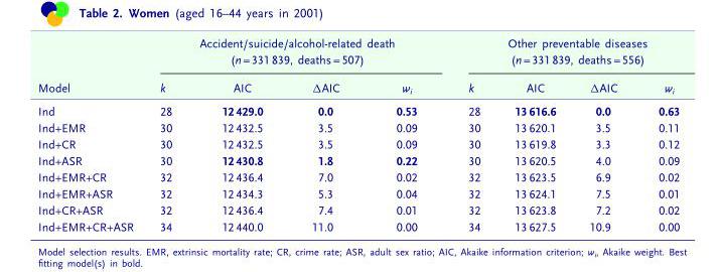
<table><thead><tr><td rowspan="2">Model</td><td colspan="4">Accident/suicide/alcohol-related death (n = 331 839, deaths = 507)</td><td colspan="4">Other preventable diseases (n = 331 839, deaths = 556)</td></tr><tr><td>k</td><td>AIC</td><td>ΔAIC</td><td>w<sub>i</sub></td><td>k</td><td>AIC</td><td>ΔAIC</td><td>w<sub>i</sub></td></tr></thead><tbody><tr><td>Ind</td><td>28</td><td>12 429.0</td><td>0.0</td><td>0.53</td><td>28</td><td>13 616.6</td><td>0.0</td><td>0.63</td></tr><tr><td>Ind+EMR</td><td>30</td><td>12 432.5</td><td>3.5</td><td>0.09</td><td>30</td><td>13 620.1</td><td>3.5</td><td>0.11</td></tr><tr><td>Ind+CR</td><td>30</td><td>12 432.5</td><td>3.5</td><td>0.09</td><td>30</td><td>13 619.8</td><td>3.3</td><td>0.12</td></tr><tr><td>Ind+ASR</td><td>30</td><td>12 430.8</td><td>1.8</td><td>0.22</td><td>30</td><td>13 620.5</td><td>4.0</td><td>0.09</td></tr><tr><td>Ind+EMR+CR</td><td>32</td><td>12 436.4</td><td>7.0</td><td>0.02</td><td>32</td><td>13 623.5</td><td>6.9</td><td>0.02</td></tr><tr><td>Ind+EMR+ASR</td><td>32</td><td>12 434.3</td><td>5.3</td><td>0.04</td><td>32</td><td>13 624.1</td><td>7.5</td><td>0.01</td></tr><tr><td>Ind+CR+ASR</td><td>32</td><td>12 436.4</td><td>7.4</td><td>0.01</td><td>32</td><td>13 623.8</td><td>7.2</td><td>0.02</td></tr><tr><td>Ind+EMR+CR+ASR</td><td>34</td><td>12 440.0</td><td>11.0</td><td>0.00</td><td>34</td><td>13 627.5</td><td>10.9</td><td>0.00</td></tr></tbody></table>